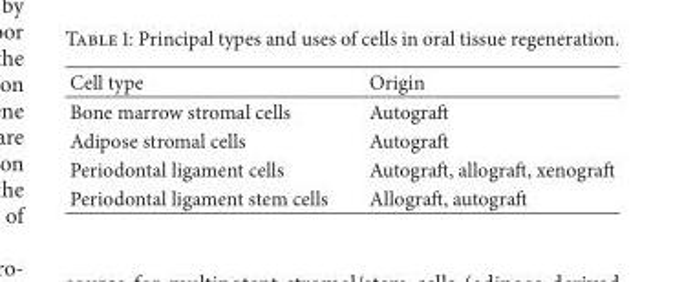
<table><thead><tr><td>Cell type</td><td>Origin</td></tr></thead><tbody><tr><td>Bone marrow stromal cells</td><td>Autograft</td></tr><tr><td>Adipose stromal cells</td><td>Autograft</td></tr><tr><td>Periodontal ligament cells</td><td>Autograft, allograft, xenograft</td></tr><tr><td>Periodontal ligament stem cells</td><td>Allograft, autograft</td></tr></tbody></table>